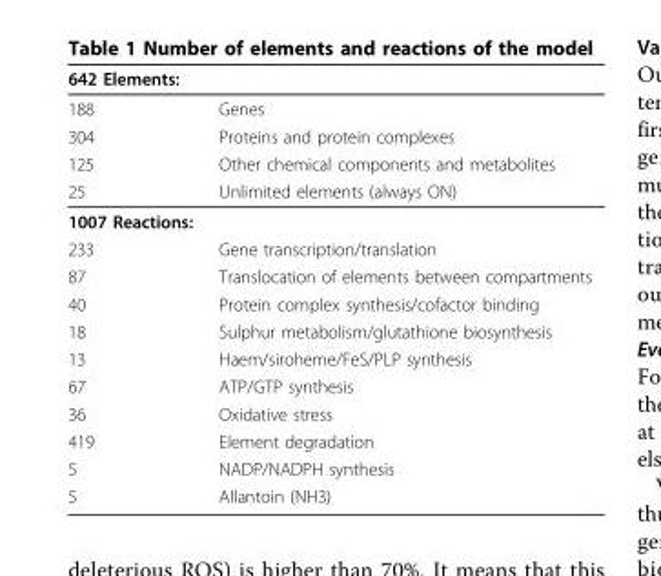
<table><thead><tr><td>642 Elements:</td><td></td></tr></thead><tbody><tr><td>188</td><td>Genes</td></tr><tr><td>304</td><td>Proteins and protein complexes</td></tr><tr><td>125</td><td>Other chemical components and metabolites</td></tr><tr><td>25</td><td>Unlimited elements (always ON)</td></tr><tr><td colspan="2">1007 Reactions:</td></tr><tr><td>233</td><td>Gene transcription/translation</td></tr><tr><td>87</td><td>Translocation of elements between compartments</td></tr><tr><td>40</td><td>Protein complex synthesis/cofactor binding</td></tr><tr><td>18</td><td>Sulphur metabolism/glutathione biosynthesis</td></tr><tr><td>13</td><td>Haem/siroheme/FeS/PLP synthesis</td></tr><tr><td>67</td><td>ATP/GTP synthesis</td></tr><tr><td>36</td><td>Oxidative stress</td></tr><tr><td>419</td><td>Element degradation</td></tr><tr><td>5</td><td>NADP/NADPH synthesis</td></tr><tr><td>5</td><td>Allantoin (NH3)</td></tr></tbody></table>